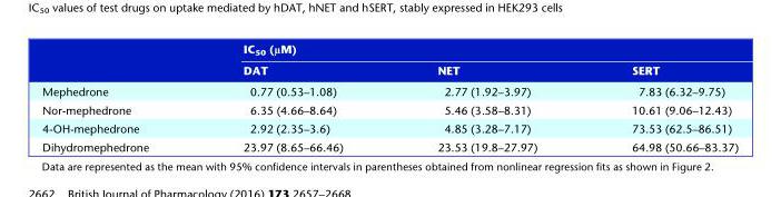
<table><thead><tr><td rowspan="2"></td><td colspan="3">IC<sub>50</sub> (μM)</td></tr><tr><td>DAT</td><td>NET</td><td>SERT</td></tr></thead><tbody><tr><td>Mephedrone</td><td>0.77 (0.53–1.08)</td><td>2.77 (1.92–3.97)</td><td>7.83 (6.32–9.75)</td></tr><tr><td>Nor-mephedrone</td><td>6.35 (4.66–8.64)</td><td>5.46 (3.58–8.31)</td><td>10.61 (9.06–12.43)</td></tr><tr><td>4-OH-mephedrone</td><td>2.92 (2.35–3.6)</td><td>4.85 (3.28–7.17)</td><td>73.53 (62.5–86.51)</td></tr><tr><td>Dihydromephedrone</td><td>23.97 (8.65–66.46)</td><td>23.53 (19.8–27.97)</td><td>64.98 (50.66–83.37)</td></tr></tbody></table>